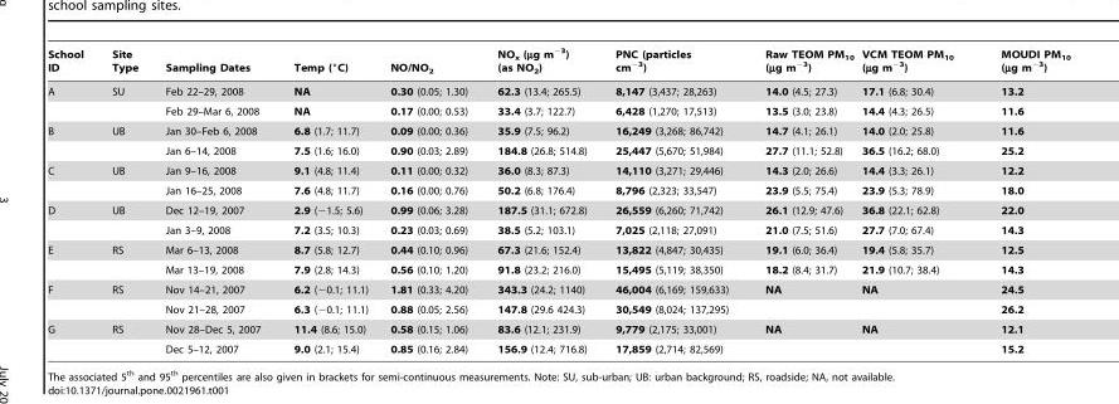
<table><thead><tr><td>School ID</td><td>Site Type</td><td>Sampling Dates</td><td>Temp (°C)</td><td>NO/NO<sub>2</sub></td><td>NO<sub>x</sub> (µg m<sup>−3</sup>) (as NO<sub>2</sub>)</td><td>PNC (particles cm<sup>−3</sup>)</td><td>Raw TEOM PM<sub>10</sub> (µg m<sup>−3</sup>)</td><td>VCM TEOM PM<sub>10</sub> (µg m<sup>−3</sup>)</td><td>MOUDI PM<sub>10</sub> (µg m<sup>−3</sup>)</td></tr></thead><tbody><tr><td rowspan="2">A</td><td>SU</td><td>Feb 22–29, 2008</td><td>NA</td><td>0.30 (0.05; 1.30)</td><td>62.3 (13.4; 265.5)</td><td>8,147 (3,437; 28,263)</td><td>14.0 (4.5; 27.3)</td><td>17.1 (6.8; 30.4)</td><td>13.2</td></tr><tr><td></td><td>Feb 29–Mar 6, 2008</td><td>NA</td><td>0.17 (0.00; 0.53)</td><td>33.4 (3.7; 122.7)</td><td>6,428 (1,270; 17,513)</td><td>13.5 (3.0; 23.8)</td><td>14.4 (4.3; 26.5)</td><td>11.6</td></tr><tr><td rowspan="2">B</td><td>UB</td><td>Jan 30–Feb 6, 2008</td><td>6.8 (1.7; 11.7)</td><td>0.09 (0.00; 0.36)</td><td>35.9 (7.5; 96.2)</td><td>16,249 (3,268; 86,742)</td><td>14.7 (4.1; 26.1)</td><td>14.0 (2.0; 25.8)</td><td>11.6</td></tr><tr><td></td><td>Jan 6–14, 2008</td><td>7.5 (1.6; 16.0)</td><td>0.90 (0.03; 2.89)</td><td>184.8 (26.8; 514.8)</td><td>25,447 (5,670; 51,984)</td><td>27.7 (11.1; 52.8)</td><td>36.5 (16.2; 68.0)</td><td>25.2</td></tr><tr><td rowspan="2">C</td><td>UB</td><td>Jan 9–16, 2008</td><td>9.1 (4.8; 11.4)</td><td>0.11 (0.00; 0.32)</td><td>36.0 (8.3; 87.3)</td><td>14,110 (3,271; 29,446)</td><td>14.3 (2.0; 26.6)</td><td>14.4 (3.3; 26.1)</td><td>12.2</td></tr><tr><td></td><td>Jan 16–25, 2008</td><td>7.6 (4.8; 11.7)</td><td>0.16 (0.00; 0.76)</td><td>50.2 (6.8; 176.4)</td><td>8,796 (2,323; 33,547)</td><td>23.9 (5.5; 75.4)</td><td>23.9 (5.3; 78.9)</td><td>18.0</td></tr><tr><td rowspan="2">D</td><td>UB</td><td>Dec 12–19, 2007</td><td>2.9 (−1.5; 5.6)</td><td>0.99 (0.06; 3.28)</td><td>187.5 (31.1; 672.8)</td><td>26,559 (6,260; 71,742)</td><td>26.1 (12.9; 47.6)</td><td>36.8 (22.1; 62.8)</td><td>22.0</td></tr><tr><td></td><td>Jan 3–9, 2008</td><td>7.2 (3.5; 10.3)</td><td>0.23 (0.03; 0.69)</td><td>38.5 (5.2; 103.1)</td><td>7,025 (2,118; 27,091)</td><td>21.0 (7.5; 51.6)</td><td>27.7 (7.0; 67.4)</td><td>14.3</td></tr><tr><td rowspan="2">E</td><td>RS</td><td>Mar 6–13, 2008</td><td>8.7 (5.8; 12.7)</td><td>0.44 (0.10; 0.96)</td><td>67.3 (21.6; 152.4)</td><td>13,822 (4,847; 30,435)</td><td>19.1 (6.0; 36.4)</td><td>19.4 (5.8; 35.7)</td><td>12.5</td></tr><tr><td></td><td>Mar 13–19, 2008</td><td>7.9 (2.8; 14.3)</td><td>0.56 (0.10; 1.20)</td><td>91.8 (23.2; 216.0)</td><td>15,495 (5,119; 38,350)</td><td>18.2 (8.4; 31.7)</td><td>21.9 (10.7; 38.4)</td><td>14.3</td></tr><tr><td rowspan="2">F</td><td>RS</td><td>Nov 14–21, 2007</td><td>6.2 (−0.1; 11.1)</td><td>1.81 (0.33; 4.20)</td><td>343.3 (24.2; 1140)</td><td>46,004 (6,169; 159,633)</td><td>NA</td><td>NA</td><td>24.5</td></tr><tr><td></td><td>Nov 21–28, 2007</td><td>6.3 (−0.1; 11.1)</td><td>0.88 (0.05; 2.56)</td><td>147.8 (29.6 424.3)</td><td>30,549 (8,024; 137,295)</td><td></td><td></td><td>26.2</td></tr><tr><td rowspan="2">G</td><td>RS</td><td>Nov 28–Dec 5, 2007</td><td>11.4 (8.6; 15.0)</td><td>0.58 (0.15; 1.06)</td><td>83.6 (12.1; 231.9)</td><td>9,779 (2,175; 33,001)</td><td>NA</td><td>NA</td><td>12.1</td></tr><tr><td></td><td>Dec 5–12, 2007</td><td>9.0 (2.1; 15.4)</td><td>0.85 (0.16; 2.84)</td><td>156.9 (12.4; 716.8)</td><td>17,859 (2,714; 82,569)</td><td></td><td></td><td>15.2</td></tr></tbody></table>